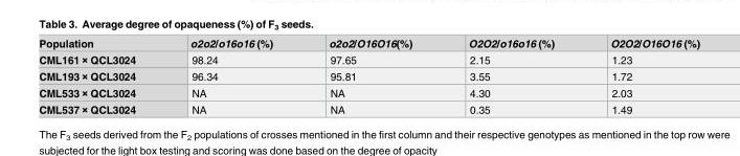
<table><thead><tr><td>Population</td><td>o2o2/o16o16 (%)</td><td>o2o2/O16O16(%)</td><td>O2O2/o16o16 (%)</td><td>O2O2/O16O16 (%)</td></tr></thead><tbody><tr><td>CML161 × QCL3024</td><td>98.24</td><td>97.65</td><td>2.15</td><td>1.23</td></tr><tr><td>CML193 × QCL3024</td><td>96.34</td><td>95.81</td><td>3.55</td><td>1.72</td></tr><tr><td>CML533 × QCL3024</td><td>NA</td><td>NA</td><td>4.30</td><td>2.03</td></tr><tr><td>CML537 × QCL3024</td><td>NA</td><td>NA</td><td>0.35</td><td>1.49</td></tr></tbody></table>